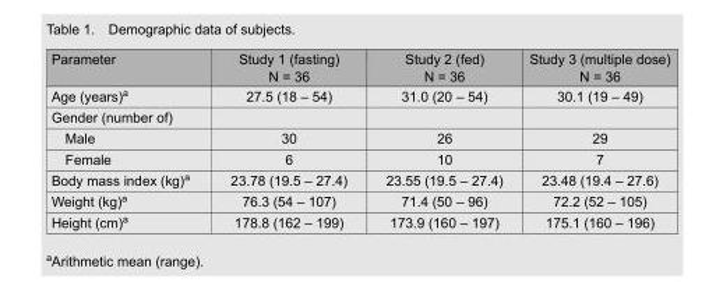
<table><thead><tr><td>Parameter</td><td>Study 1 (fasting) N = 36</td><td>Study 2 (fed) N = 36</td><td>Study 3 (multiple dose) N = 36</td></tr></thead><tbody><tr><td>Age (years)<sup>a</sup></td><td>27.5 (18 – 54)</td><td>31.0 (20 – 54)</td><td>30.1 (19 – 49)</td></tr><tr><td colspan="4">Gender (number of)</td></tr><tr><td>Male</td><td>30</td><td>26</td><td>29</td></tr><tr><td>Female</td><td>6</td><td>10</td><td>7</td></tr><tr><td>Body mass index (kg)<sup>a</sup></td><td>23.78 (19.5 – 27.4)</td><td>23.55 (19.5 – 27.4)</td><td>23.48 (19.4 – 27.6)</td></tr><tr><td>Weight (kg)<sup>a</sup></td><td>76.3 (54 – 107)</td><td>71.4 (50 – 96)</td><td>72.2 (52 – 105)</td></tr><tr><td>Height (cm)<sup>a</sup></td><td>178.8 (162 – 199)</td><td>173.9 (160 – 197)</td><td>175.1 (160 – 196)</td></tr></tbody></table>